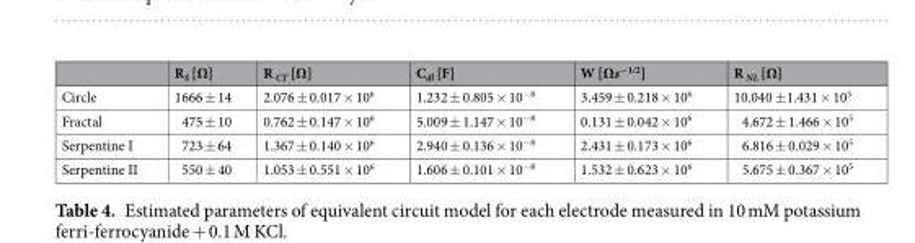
<table><thead><tr><td></td><td>R<sub>S</sub> [Ω]</td><td>R <sub>CT</sub> [Ω]</td><td>C<sub>dl</sub> [F]</td><td>W [Ωs<sup>−1/2</sup>]</td><td>R <sub>NL</sub> [Ω]</td></tr></thead><tbody><tr><td>Circle</td><td>1666 ± 14</td><td>2.076 ± 0.017 × 10<sup>6</sup></td><td>1.232 ± 0.805 × 10<sup>−8</sup></td><td>3.459 ± 0.218 × 10<sup>6</sup></td><td>10.040 ±1.431 × 10<sup>5</sup></td></tr><tr><td>Fractal</td><td>475 ± 10</td><td>0.762 ± 0.147 × 10<sup>6</sup></td><td>5.009 ± 1.147 × 10<sup>−8</sup></td><td>0.131 ± 0.042 × 10<sup>6</sup></td><td>4.672 ± 1.466 × 10<sup>5</sup></td></tr><tr><td>Serpentine I</td><td>723 ± 64</td><td>1.367 ± 0.140 × 10<sup>6</sup></td><td>2.940 ± 0.136 × 10<sup>−8</sup></td><td>2.431 ± 0.173 × 10<sup>6</sup></td><td>6.816 ± 0.029 × 10<sup>5</sup></td></tr><tr><td>Serpentine II</td><td>550 ± 40</td><td>1.053 ± 0.551 × 10<sup>6</sup></td><td>1.606 ± 0.101 × 10<sup>−8</sup></td><td>1.532 ± 0.623 × 10<sup>6</sup></td><td>5.675 ± 0.367 × 10<sup>5</sup></td></tr></tbody></table>